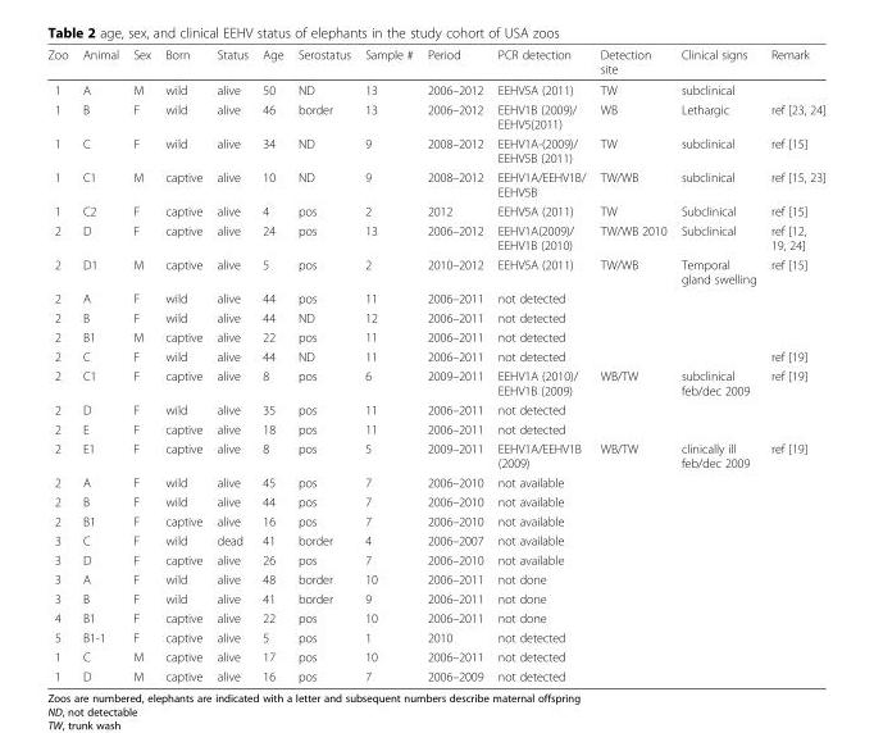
<table><thead><tr><td>Zoo</td><td>Animal</td><td>Sex</td><td>Born</td><td>Status</td><td>Age</td><td>Serostatus</td><td>Sample #</td><td>Period</td><td>PCR detection</td><td>Detection site</td><td>Clinical signs</td><td>Remark</td></tr></thead><tbody><tr><td>1</td><td>A</td><td>M</td><td>wild</td><td>alive</td><td>50</td><td>ND</td><td>13</td><td>2006–2012</td><td>EEHV5A (2011)</td><td>TW</td><td>subclinical</td><td></td></tr><tr><td>1</td><td>B</td><td>F</td><td>wild</td><td>alive</td><td>46</td><td>border</td><td>13</td><td>2006–2012</td><td>EEHV1B (2009)/ EEHV5(2011)</td><td>WB</td><td>Lethargic</td><td>ref [23, 24]</td></tr><tr><td>1</td><td>C</td><td>F</td><td>wild</td><td>alive</td><td>34</td><td>ND</td><td>9</td><td>2008–2012</td><td>EEHV1A-(2009)/ EEHV5B (2011)</td><td>TW</td><td>subclinical</td><td>ref [15]</td></tr><tr><td>1</td><td>C1</td><td>M</td><td>captive</td><td>alive</td><td>10</td><td>ND</td><td>9</td><td>2008–2012</td><td>EEHV1A/EEHV1B/ EEHV5B</td><td>TW/WB</td><td>subclinical</td><td>ref [15, 23]</td></tr><tr><td>1</td><td>C2</td><td>F</td><td>captive</td><td>alive</td><td>4</td><td>pos</td><td>2</td><td>2012</td><td>EEHV5A (2011)</td><td>TW</td><td>Subclinical</td><td>ref [15]</td></tr><tr><td>2</td><td>D</td><td>F</td><td>captive</td><td>alive</td><td>24</td><td>pos</td><td>13</td><td>2006–2012</td><td>EEHV1A(2009)/ EEHV1B (2010)</td><td>TW/WB 2010</td><td>Subclinical</td><td>ref [12, 19, 24]</td></tr><tr><td>2</td><td>D1</td><td>M</td><td>captive</td><td>alive</td><td>5</td><td>pos</td><td>2</td><td>2010–2012</td><td>EEHV5A (2011)</td><td>TW/WB</td><td>Temporal gland swelling</td><td>ref [15]</td></tr><tr><td>2</td><td>A</td><td>F</td><td>wild</td><td>alive</td><td>44</td><td>pos</td><td>11</td><td>2006–2011</td><td>not detected</td><td></td><td></td><td></td></tr><tr><td>2</td><td>B</td><td>F</td><td>wild</td><td>alive</td><td>44</td><td>ND</td><td>12</td><td>2006–2011</td><td>not detected</td><td></td><td></td><td></td></tr><tr><td>2</td><td>B1</td><td>M</td><td>captive</td><td>alive</td><td>22</td><td>pos</td><td>11</td><td>2006–2011</td><td>not detected</td><td></td><td></td><td></td></tr><tr><td>2</td><td>C</td><td>F</td><td>wild</td><td>alive</td><td>44</td><td>ND</td><td>11</td><td>2006–2011</td><td>not detected</td><td></td><td></td><td>ref [19]</td></tr><tr><td>2</td><td>C1</td><td>F</td><td>captive</td><td>alive</td><td>8</td><td>pos</td><td>6</td><td>2009–2011</td><td>EEHV1A (2010)/ EEHV1B (2009)</td><td>WB/TW</td><td>subclinical feb/dec 2009</td><td>ref [19]</td></tr><tr><td>2</td><td>D</td><td>F</td><td>wild</td><td>alive</td><td>35</td><td>pos</td><td>11</td><td>2006–2011</td><td>not detected</td><td></td><td></td><td></td></tr><tr><td>2</td><td>E</td><td>F</td><td>captive</td><td>alive</td><td>18</td><td>pos</td><td>11</td><td>2006–2011</td><td>not detected</td><td></td><td></td><td></td></tr><tr><td>2</td><td>E1</td><td>F</td><td>captive</td><td>alive</td><td>8</td><td>pos</td><td>5</td><td>2009–2011</td><td>EEHV1A/EEHV1B (2009)</td><td>WB/TW</td><td>clinically ill feb/dec 2009</td><td>ref [19]</td></tr><tr><td>2</td><td>A</td><td>F</td><td>wild</td><td>alive</td><td>45</td><td>pos</td><td>7</td><td>2006–2010</td><td>not available</td><td></td><td></td><td></td></tr><tr><td>2</td><td>B</td><td>F</td><td>wild</td><td>alive</td><td>44</td><td>pos</td><td>7</td><td>2006–2010</td><td>not available</td><td></td><td></td><td></td></tr><tr><td>2</td><td>B1</td><td>F</td><td>captive</td><td>alive</td><td>16</td><td>pos</td><td>7</td><td>2006–2010</td><td>not available</td><td></td><td></td><td></td></tr><tr><td>3</td><td>C</td><td>F</td><td>wild</td><td>dead</td><td>41</td><td>border</td><td>4</td><td>2006–2007</td><td>not available</td><td></td><td></td><td></td></tr><tr><td>3</td><td>D</td><td>F</td><td>captive</td><td>alive</td><td>26</td><td>pos</td><td>7</td><td>2006–2010</td><td>not available</td><td></td><td></td><td></td></tr><tr><td>3</td><td>A</td><td>F</td><td>wild</td><td>alive</td><td>48</td><td>border</td><td>10</td><td>2006–2011</td><td>not done</td><td></td><td></td><td></td></tr><tr><td>3</td><td>B</td><td>F</td><td>wild</td><td>alive</td><td>41</td><td>border</td><td>9</td><td>2006–2011</td><td>not done</td><td></td><td></td><td></td></tr><tr><td>4</td><td>B1</td><td>F</td><td>captive</td><td>alive</td><td>22</td><td>pos</td><td>10</td><td>2006–2011</td><td>not done</td><td></td><td></td><td></td></tr><tr><td>5</td><td>B1-1</td><td>F</td><td>captive</td><td>alive</td><td>5</td><td>pos</td><td>1</td><td>2010</td><td>not detected</td><td></td><td></td><td></td></tr><tr><td>1</td><td>C</td><td>M</td><td>captive</td><td>alive</td><td>17</td><td>pos</td><td>10</td><td>2006–2011</td><td>not detected</td><td></td><td></td><td></td></tr><tr><td>1</td><td>D</td><td>M</td><td>captive</td><td>alive</td><td>16</td><td>pos</td><td>7</td><td>2006–2009</td><td>not detected</td><td></td><td></td><td></td></tr></tbody></table>